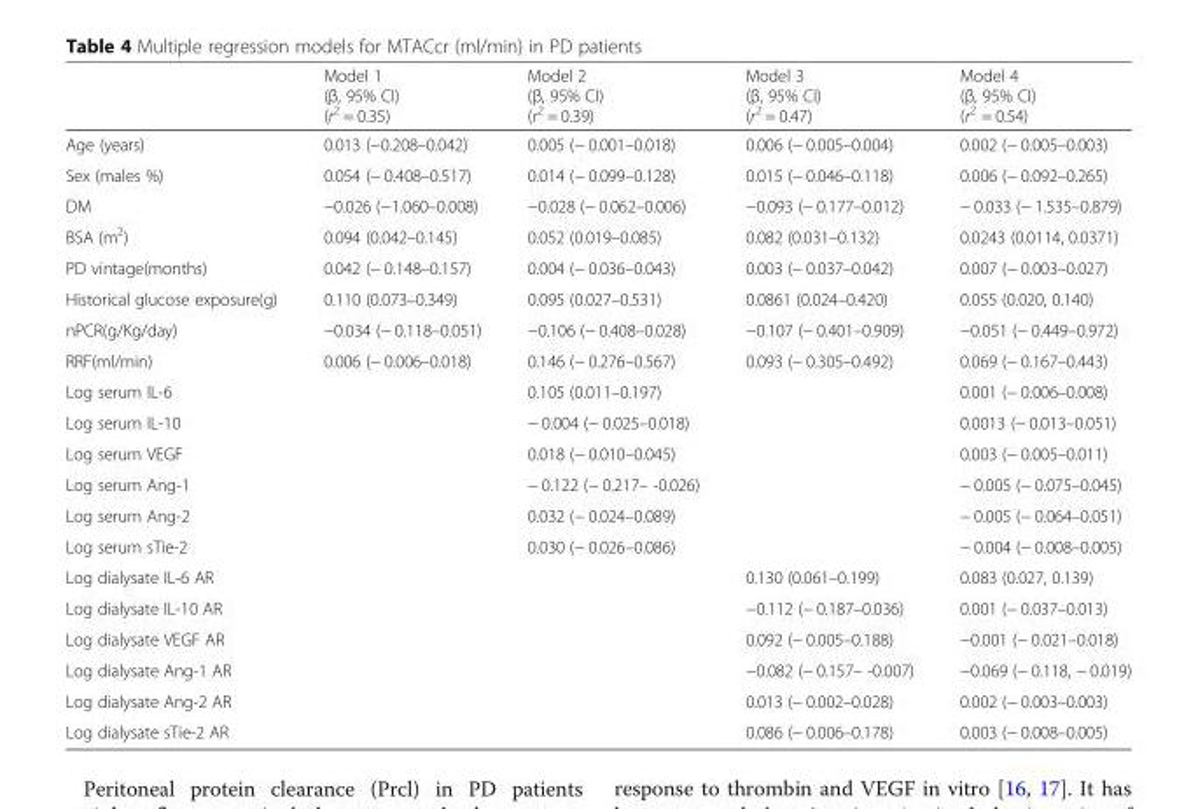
<table><thead><tr><td></td><td>Model 1 (β, 95% CI) (r<sup>2</sup> = 0.35)</td><td>Model 2 (β, 95% CI) (r<sup>2</sup> = 0.39)</td><td>Model 3 (β, 95% CI) (r<sup>2</sup> = 0.47)</td><td>Model 4 (β, 95% CI) (r<sup>2</sup> = 0.54)</td></tr></thead><tbody><tr><td>Age (years)</td><td>0.013 (−0.208–0.042)</td><td>0.005 (− 0.001–0.018)</td><td>0.006 (− 0.005–0.004)</td><td>0.002 (− 0.005–0.003)</td></tr><tr><td>Sex (males %)</td><td>0.054 (− 0.408–0.517)</td><td>0.014 (− 0.099–0.128)</td><td>0.015 (− 0.046–0.118)</td><td>0.006 (− 0.092–0.265)</td></tr><tr><td>DM</td><td>−0.026 (−1.060–0.008)</td><td>−0.028 (− 0.062–0.006)</td><td>−0.093 (− 0.177–0.012)</td><td>− 0.033 (− 1.535–0.879)</td></tr><tr><td>BSA (m<sup>2</sup>)</td><td>0.094 (0.042–0.145)</td><td>0.052 (0.019–0.085)</td><td>0.082 (0.031–0.132)</td><td>0.0243 (0.0114, 0.0371)</td></tr><tr><td>PD vintage(months)</td><td>0.042 (− 0.148–0.157)</td><td>0.004 (− 0.036–0.043)</td><td>0.003 (− 0.037–0.042)</td><td>0.007 (− 0.003–0.027)</td></tr><tr><td>Historical glucose exposure(g)</td><td>0.110 (0.073–0.349)</td><td>0.095 (0.027–0.531)</td><td>0.0861 (0.024–0.420)</td><td>0.055 (0.020, 0.140)</td></tr><tr><td>nPCR(g/Kg/day)</td><td>−0.034 (− 0.118–0.051)</td><td>−0.106 (− 0.408–0.028)</td><td>−0.107 (− 0.401–0.909)</td><td>−0.051 (− 0.449–0.972)</td></tr><tr><td>RRF(ml/min)</td><td>0.006 (− 0.006–0.018)</td><td>0.146 (− 0.276–0.567)</td><td>0.093 (− 0.305–0.492)</td><td>0.069 (− 0.167–0.443)</td></tr><tr><td>Log serum IL-6</td><td></td><td>0.105 (0.011–0.197)</td><td></td><td>0.001 (− 0.006–0.008)</td></tr><tr><td>Log serum IL-10</td><td></td><td>− 0.004 (− 0.025–0.018)</td><td></td><td>0.0013 (− 0.013–0.051)</td></tr><tr><td>Log serum VEGF</td><td></td><td>0.018 (− 0.010–0.045)</td><td></td><td>0.003 (− 0.005–0.011)</td></tr><tr><td>Log serum Ang-1</td><td></td><td>− 0.122 (− 0.217– -0.026)</td><td></td><td>− 0.005 (− 0.075–0.045)</td></tr><tr><td>Log serum Ang-2</td><td></td><td>0.032 (− 0.024–0.089)</td><td></td><td>− 0.005 (− 0.064–0.051)</td></tr><tr><td>Log serum sTie-2</td><td></td><td>0.030 (− 0.026–0.086)</td><td></td><td>− 0.004 (− 0.008–0.005)</td></tr><tr><td>Log dialysate IL-6 AR</td><td></td><td></td><td>0.130 (0.061–0.199)</td><td>0.083 (0.027, 0.139)</td></tr><tr><td>Log dialysate IL-10 AR</td><td></td><td></td><td>−0.112 (− 0.187–0.036)</td><td>0.001 (− 0.037–0.013)</td></tr><tr><td>Log dialysate VEGF AR</td><td></td><td></td><td>0.092 (− 0.005–0.188)</td><td>−0.001 (− 0.021–0.018)</td></tr><tr><td>Log dialysate Ang-1 AR</td><td></td><td></td><td>−0.082 (− 0.157– -0.007)</td><td>−0.069 (− 0.118, − 0.019)</td></tr><tr><td>Log dialysate Ang-2 AR</td><td></td><td></td><td>0.013 (− 0.002–0.028)</td><td>0.002 (− 0.003–0.003)</td></tr><tr><td>Log dialysate sTie-2 AR</td><td></td><td></td><td>0.086 (− 0.006–0.178)</td><td>0.003 (− 0.008–0.005)</td></tr></tbody></table>